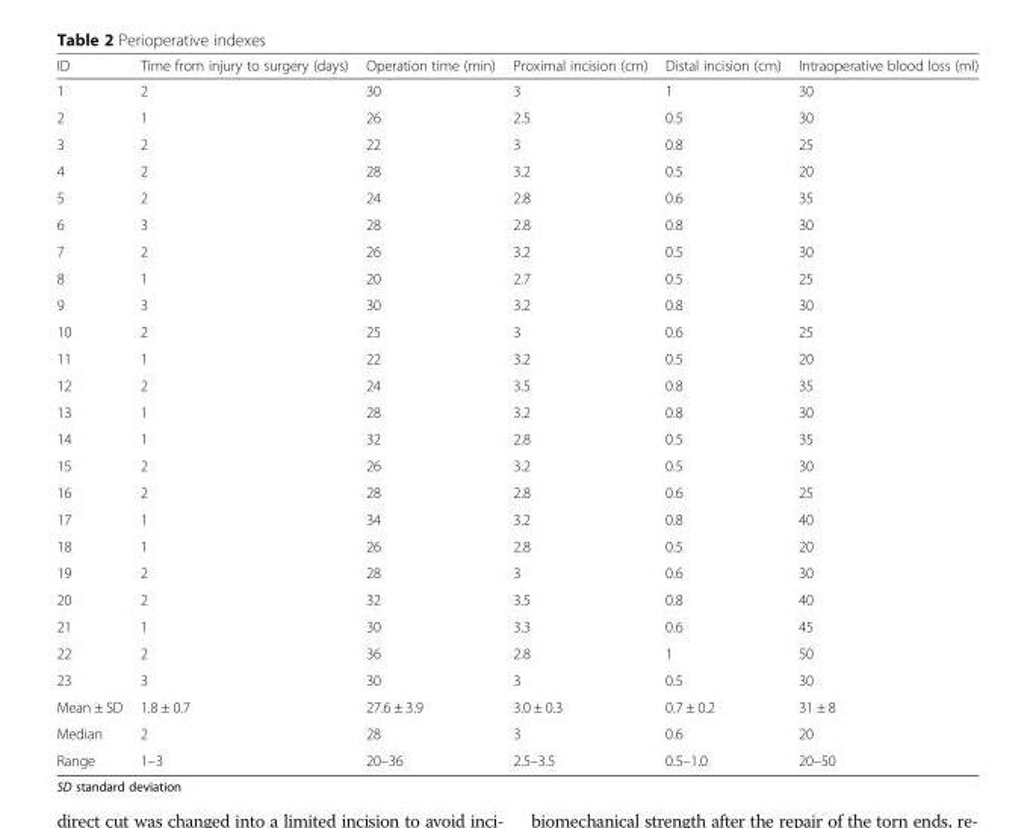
<table><thead><tr><td>ID</td><td>Time from injury to surgery (days)</td><td>Operation time (min)</td><td>Proximal incision (cm)</td><td>Distal incision (cm)</td><td>Intraoperative blood loss (ml)</td></tr></thead><tbody><tr><td>1</td><td>2</td><td>30</td><td>3</td><td>1</td><td>30</td></tr><tr><td>2</td><td>1</td><td>26</td><td>2.5</td><td>0.5</td><td>30</td></tr><tr><td>3</td><td>2</td><td>22</td><td>3</td><td>0.8</td><td>25</td></tr><tr><td>4</td><td>2</td><td>28</td><td>3.2</td><td>0.5</td><td>20</td></tr><tr><td>5</td><td>2</td><td>24</td><td>2.8</td><td>0.6</td><td>35</td></tr><tr><td>6</td><td>3</td><td>28</td><td>2.8</td><td>0.8</td><td>30</td></tr><tr><td>7</td><td>2</td><td>26</td><td>3.2</td><td>0.5</td><td>30</td></tr><tr><td>8</td><td>1</td><td>20</td><td>2.7</td><td>0.5</td><td>25</td></tr><tr><td>9</td><td>3</td><td>30</td><td>3.2</td><td>0.8</td><td>30</td></tr><tr><td>10</td><td>2</td><td>25</td><td>3</td><td>0.6</td><td>25</td></tr><tr><td>11</td><td>1</td><td>22</td><td>3.2</td><td>0.5</td><td>20</td></tr><tr><td>12</td><td>2</td><td>24</td><td>3.5</td><td>0.8</td><td>35</td></tr><tr><td>13</td><td>1</td><td>28</td><td>3.2</td><td>0.8</td><td>30</td></tr><tr><td>14</td><td>1</td><td>32</td><td>2.8</td><td>0.5</td><td>35</td></tr><tr><td>15</td><td>2</td><td>26</td><td>3.2</td><td>0.5</td><td>30</td></tr><tr><td>16</td><td>2</td><td>28</td><td>2.8</td><td>0.6</td><td>25</td></tr><tr><td>17</td><td>1</td><td>34</td><td>3.2</td><td>0.8</td><td>40</td></tr><tr><td>18</td><td>1</td><td>26</td><td>2.8</td><td>0.5</td><td>20</td></tr><tr><td>19</td><td>2</td><td>28</td><td>3</td><td>0.6</td><td>30</td></tr><tr><td>20</td><td>2</td><td>32</td><td>3.5</td><td>0.8</td><td>40</td></tr><tr><td>21</td><td>1</td><td>30</td><td>3.3</td><td>0.6</td><td>45</td></tr><tr><td>22</td><td>2</td><td>36</td><td>2.8</td><td>1</td><td>50</td></tr><tr><td>23</td><td>3</td><td>30</td><td>3</td><td>0.5</td><td>30</td></tr><tr><td>Mean ± SD</td><td>1.8 ± 0.7</td><td>27.6 ± 3.9</td><td>3.0 ± 0.3</td><td>0.7 ± 0.2</td><td>31 ± 8</td></tr><tr><td>Median</td><td>2</td><td>28</td><td>3</td><td>0.6</td><td>20</td></tr><tr><td>Range</td><td>1–3</td><td>20–36</td><td>2.5–3.5</td><td>0.5–1.0</td><td>20–50</td></tr></tbody></table>